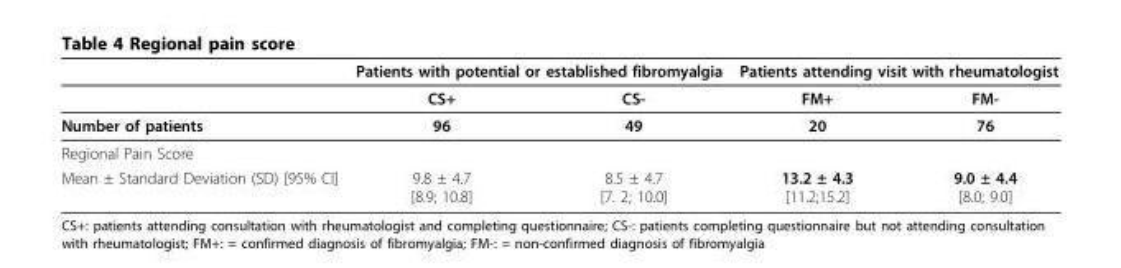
<table><thead><tr><td rowspan="2"></td><td colspan="2">Patients with potential or established fibromyalgia</td><td colspan="2">Patients attending visit with rheumatologist</td></tr><tr><td>CS+</td><td>CS-</td><td>FM+</td><td>FM-</td></tr></thead><tbody><tr><td>Number of patients</td><td>96</td><td>49</td><td>20</td><td>76</td></tr><tr><td colspan="5">Regional Pain Score</td></tr><tr><td>Mean ± Standard Deviation (SD) [95% CI]</td><td>9.8 ± 4.7 [8.9; 10.8]</td><td>8.5 ± 4.7 [7. 2; 10.0]</td><td>13.2 ± 4.3 [11.2;15.2]</td><td>9.0 ± 4.4 [8.0; 9.0]</td></tr></tbody></table>